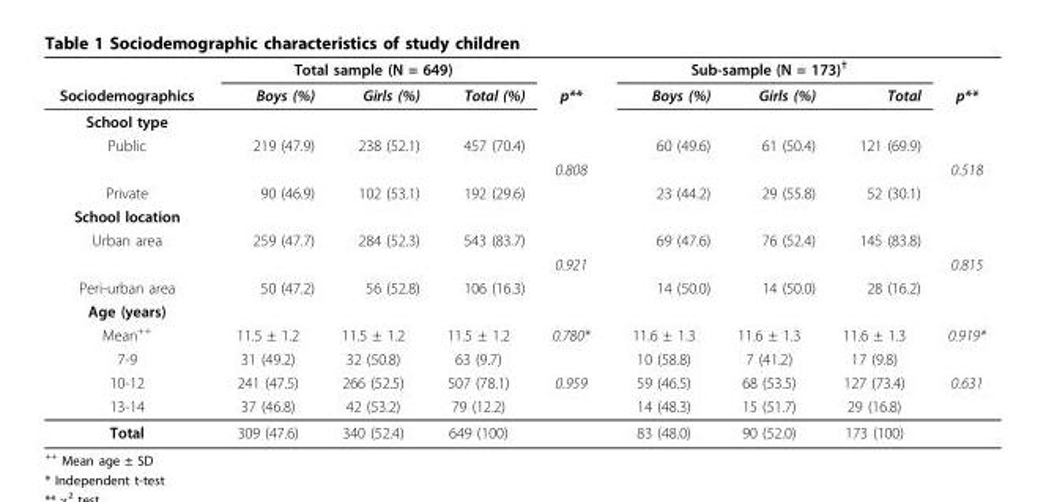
<table><thead><tr><td rowspan="15">Sociodemographics School type Public Private School location Urban area Peri-urban area Age (years) Mean++ 7-9 10-12 13-14</td><td colspan="3">Total sample (N = 649)</td><td rowspan="15">p** 0.808 0.921 0.780* 0.959</td><td colspan="3">Sub-sample (N = 173)†</td><td rowspan="15">p** 0.518 0.815 0.919* 0.631</td></tr><tr><td rowspan="14">Boys (%) 219 (47.9) 90 (46.9) 259 (47.7) 50 (47.2) 11.5 ± 1.2 31 (49.2) 241 (47.5) 37 (46.8)</td><td rowspan="14">Girls (%) 238 (52.1) 102 (53.1) 284 (52.3) 56 (52.8) 11.5 ± 1.2 32 (50.8) 266 (52.5) 42 (53.2)</td><td rowspan="14">Total (%) 457 (70.4) 192 (29.6) 543 (83.7) 106 (16.3) 11.5 ± 1.2 63 (9.7) 507 (78.1) 79 (12.2)</td><td rowspan="14">Boys (%) 60 (49.6) 23 (44.2) 69 (47.6) 14 (50.0) 11.6 ± 1.3 10 (58.8) 59 (46.5) 14 (48.3)</td><td rowspan="14">Girls (%) 61 (50.4) 29 (55.8) 76 (52.4) 14 (50.0) 11.6 ± 1.3 7 (41.2) 68 (53.5) 15 (51.7)</td><td rowspan="14">Total 121 (69.9) 52 (30.1) 145 (83.8) 28 (16.2) 11.6 ± 1.3 17 (9.8) 127 (73.4) 29 (16.8)</td></tr><tr></tr><tr></tr><tr></tr><tr></tr><tr></tr><tr></tr><tr></tr><tr></tr><tr></tr><tr></tr><tr></tr><tr></tr><tr></tr></thead><tbody><tr><td>Total</td><td>309 (47.6)</td><td>340 (52.4)</td><td>649 (100)</td><td></td><td>83 (48.0)</td><td>90 (52.0)</td><td>173 (100)</td><td></td></tr></tbody></table>